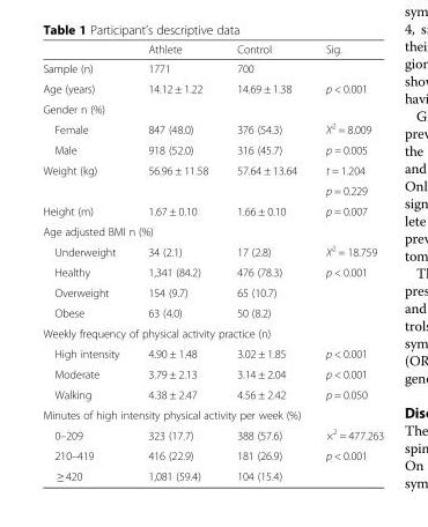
<table><thead><tr><td></td><td>Athlete</td><td>Control</td><td>Sig.</td></tr></thead><tbody><tr><td>Sample (n)</td><td>1771</td><td>700</td><td></td></tr><tr><td>Age (years)</td><td>14.12 ± 1.22</td><td>14.69 ± 1.38</td><td>p &lt; 0.001</td></tr><tr><td colspan="4">Gender n (%)</td></tr><tr><td>Female</td><td>847 (48.0)</td><td>376 (54.3)</td><td>Χ<sup>2</sup> = 8.009</td></tr><tr><td>Male</td><td>918 (52.0)</td><td>316 (45.7)</td><td>p = 0.005</td></tr><tr><td rowspan="2">Weight (kg)</td><td>56.96 ± 11.58</td><td>57.64 ± 13.64</td><td>t = 1.204</td></tr><tr><td></td><td></td><td>p = 0.229</td></tr><tr><td>Height (m)</td><td>1.67 ± 0.10</td><td>1.66 ± 0.10</td><td>p = 0.007</td></tr><tr><td colspan="4">Age adjusted BMI n (%)</td></tr><tr><td>Underweight</td><td>34 (2.1)</td><td>17 (2.8)</td><td>Χ<sup>2</sup> = 18.759</td></tr><tr><td>Healthy</td><td>1,341 (84.2)</td><td>476 (78.3)</td><td>p &lt; 0.001</td></tr><tr><td>Overweight</td><td>154 (9.7)</td><td>65 (10.7)</td><td></td></tr><tr><td>Obese</td><td>63 (4.0)</td><td>50 (8.2)</td><td></td></tr><tr><td colspan="4">Weekly frequency of physical activity practice (n)</td></tr><tr><td>High intensity</td><td>4.90 ± 1.48</td><td>3.02 ± 1.85</td><td>p &lt; 0.001</td></tr><tr><td>Moderate</td><td>3.79 ± 2.13</td><td>3.14 ± 2.04</td><td>p &lt; 0.001</td></tr><tr><td>Walking</td><td>4.38 ± 2.47</td><td>4.56 ± 2.42</td><td>p = 0.050</td></tr><tr><td colspan="4">Minutes of high intensity physical activity per week (%)</td></tr><tr><td>0–209</td><td>323 (17.7)</td><td>388 (57.6)</td><td>×<sup>2</sup> = 477.263</td></tr><tr><td>210–419</td><td>416 (22.9)</td><td>181 (26.9)</td><td>p &lt; 0.001</td></tr><tr><td>≥ 420</td><td>1,081 (59.4)</td><td>104 (15.4)</td><td></td></tr></tbody></table>